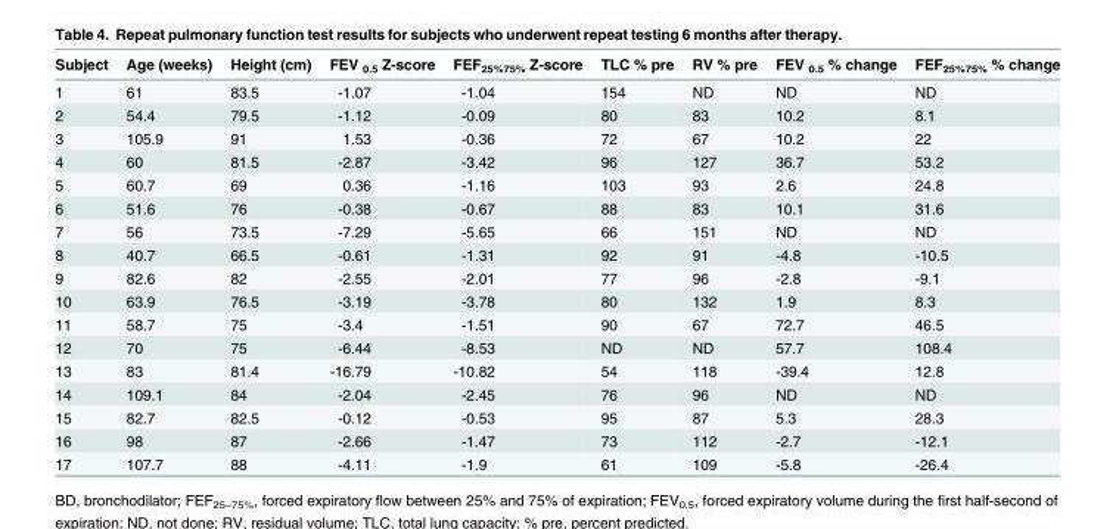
<table><thead><tr><td>Subject</td><td>Age (weeks)</td><td>Height (cm)</td><td>FEV <sub>0.5</sub> Z-score</td><td>FEF<sub>25%75%</sub> Z-score</td><td>TLC % pre</td><td>RV % pre</td><td>FEV <sub>0.5</sub> % change</td><td>FEF<sub>25%75%</sub> % change</td></tr></thead><tbody><tr><td>1</td><td>61</td><td>83.5</td><td>-1.07</td><td>-1.04</td><td>154</td><td>ND</td><td>ND</td><td>ND</td></tr><tr><td>2</td><td>54.4</td><td>79.5</td><td>-1.12</td><td>-0.09</td><td>80</td><td>83</td><td>10.2</td><td>8.1</td></tr><tr><td>3</td><td>105.9</td><td>91</td><td>1.53</td><td>-0.36</td><td>72</td><td>67</td><td>10.2</td><td>22</td></tr><tr><td>4</td><td>60</td><td>81.5</td><td>-2.87</td><td>-3.42</td><td>96</td><td>127</td><td>36.7</td><td>53.2</td></tr><tr><td>5</td><td>60.7</td><td>69</td><td>0.36</td><td>-1.16</td><td>103</td><td>93</td><td>2.6</td><td>24.8</td></tr><tr><td>6</td><td>51.6</td><td>76</td><td>-0.38</td><td>-0.67</td><td>88</td><td>83</td><td>10.1</td><td>31.6</td></tr><tr><td>7</td><td>56</td><td>73.5</td><td>-7.29</td><td>-5.65</td><td>66</td><td>151</td><td>ND</td><td>ND</td></tr><tr><td>8</td><td>40.7</td><td>66.5</td><td>-0.61</td><td>-1.31</td><td>92</td><td>91</td><td>-4.8</td><td>-10.5</td></tr><tr><td>9</td><td>82.6</td><td>82</td><td>-2.55</td><td>-2.01</td><td>77</td><td>96</td><td>-2.8</td><td>-9.1</td></tr><tr><td>10</td><td>63.9</td><td>76.5</td><td>-3.19</td><td>-3.78</td><td>80</td><td>132</td><td>1.9</td><td>8.3</td></tr><tr><td>11</td><td>58.7</td><td>75</td><td>-3.4</td><td>-1.51</td><td>90</td><td>67</td><td>72.7</td><td>46.5</td></tr><tr><td>12</td><td>70</td><td>75</td><td>-6.44</td><td>-8.53</td><td>ND</td><td>ND</td><td>57.7</td><td>108.4</td></tr><tr><td>13</td><td>83</td><td>81.4</td><td>-16.79</td><td>-10.82</td><td>54</td><td>118</td><td>-39.4</td><td>12.8</td></tr><tr><td>14</td><td>109.1</td><td>84</td><td>-2.04</td><td>-2.45</td><td>76</td><td>96</td><td>ND</td><td>ND</td></tr><tr><td>15</td><td>82.7</td><td>82.5</td><td>-0.12</td><td>-0.53</td><td>95</td><td>87</td><td>5.3</td><td>28.3</td></tr><tr><td>16</td><td>98</td><td>87</td><td>-2.66</td><td>-1.47</td><td>73</td><td>112</td><td>-2.7</td><td>-12.1</td></tr><tr><td>17</td><td>107.7</td><td>88</td><td>-4.11</td><td>-1.9</td><td>61</td><td>109</td><td>-5.8</td><td>-26.4</td></tr></tbody></table>